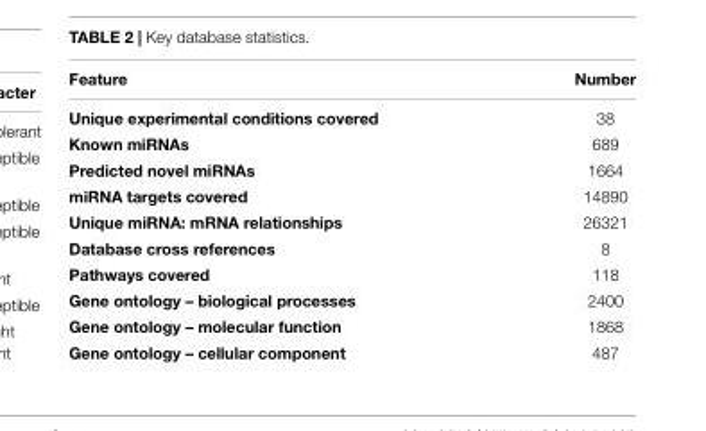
<table><thead><tr><td>Feature</td><td>Number</td></tr></thead><tbody><tr><td>Unique experimental conditions covered</td><td>38</td></tr><tr><td>Known miRNAs</td><td>689</td></tr><tr><td>Predicted novel miRNAs</td><td>1664</td></tr><tr><td>miRNA targets covered</td><td>14890</td></tr><tr><td>Unique miRNA: mRNA relationships</td><td>26321</td></tr><tr><td>Database cross references</td><td>8</td></tr><tr><td>Pathways covered</td><td>118</td></tr><tr><td>Gene ontology – biological processes</td><td>2400</td></tr><tr><td>Gene ontology – molecular function</td><td>1868</td></tr><tr><td>Gene ontology – cellular component</td><td>487</td></tr></tbody></table>